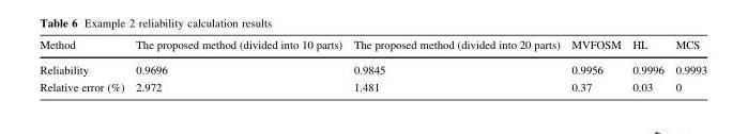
<table><thead><tr><td>Method</td><td>The proposed method (divided into 10 parts)</td><td>The proposed method (divided into 20 parts)</td><td>MVFOSM</td><td>HL</td><td>MCS</td></tr></thead><tbody><tr><td>Reliability</td><td>0.9696</td><td>0.9845</td><td>0.9956</td><td>0.9996</td><td>0.9993</td></tr><tr><td>Relative error (%)</td><td>2.972</td><td>1.481</td><td>0.37</td><td>0.03</td><td>0</td></tr></tbody></table>